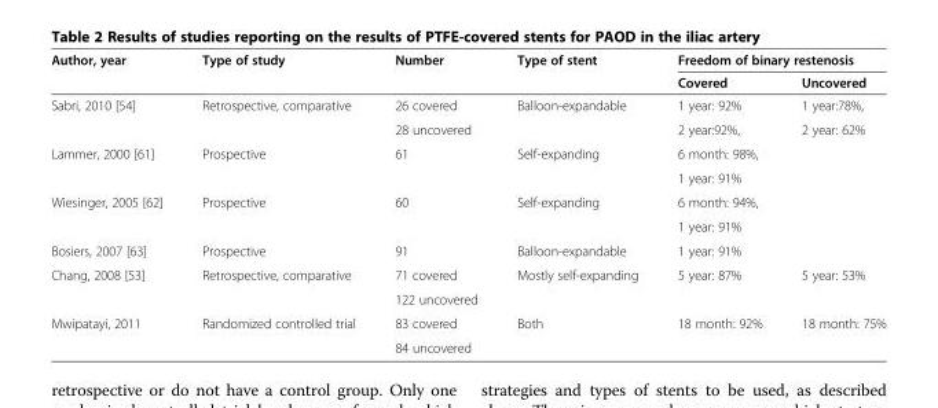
<table><thead><tr><td rowspan="2">Author, year</td><td rowspan="2">Type of study</td><td rowspan="2">Number</td><td rowspan="2">Type of stent</td><td colspan="2">Freedom of binary restenosis</td></tr><tr><td>Covered</td><td>Uncovered</td></tr></thead><tbody><tr><td rowspan="2">Sabri, 2010 [54]</td><td rowspan="2">Retrospective, comparative</td><td>26 covered</td><td rowspan="2">Balloon-expandable</td><td>1 year: 92%</td><td>1 year:78%,</td></tr><tr><td>28 uncovered</td><td>2 year:92%,</td><td>2 year: 62%</td></tr><tr><td rowspan="2">Lammer, 2000 [61]</td><td rowspan="2">Prospective</td><td rowspan="2">61</td><td rowspan="2">Self-expanding</td><td>6 month: 98%,</td><td rowspan="2"></td></tr><tr><td>1 year: 91%</td></tr><tr><td rowspan="2">Wiesinger, 2005 [62]</td><td rowspan="2">Prospective</td><td rowspan="2">60</td><td rowspan="2">Self-expanding</td><td>6 month: 94%,</td><td rowspan="2"></td></tr><tr><td>1 year: 91%</td></tr><tr><td>Bosiers, 2007 [63]</td><td>Prospective</td><td>91</td><td>Balloon-expandable</td><td>1 year: 91%</td><td></td></tr><tr><td rowspan="2">Chang, 2008 [53]</td><td rowspan="2">Retrospective, comparative</td><td>71 covered</td><td rowspan="2">Mostly self-expanding</td><td rowspan="2">5 year: 87%</td><td rowspan="2">5 year: 53%</td></tr><tr><td>122 uncovered</td></tr><tr><td rowspan="2">Mwipatayi, 2011</td><td rowspan="2">Randomized controlled trial</td><td>83 covered</td><td rowspan="2">Both</td><td rowspan="2">18 month: 92%</td><td rowspan="2">18 month: 75%</td></tr><tr><td>84 uncovered</td></tr></tbody></table>